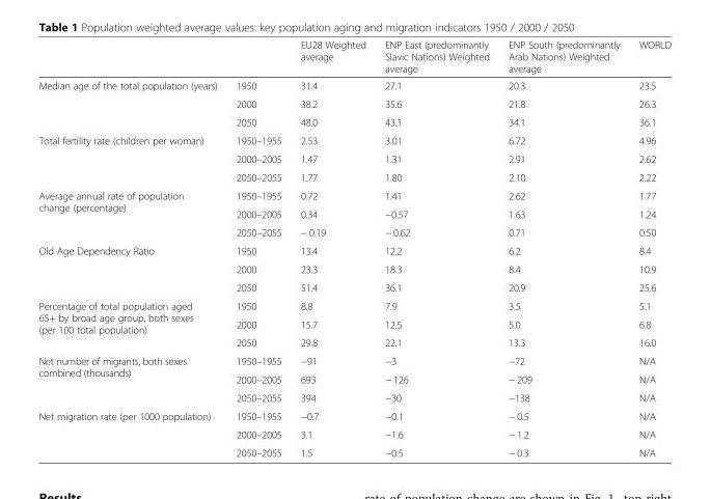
<table><thead><tr><td></td><td></td><td>EU28 Weighted average</td><td>ENP East (predominantly Slavic Nations) Weighted average</td><td>ENP South (predominantly Arab Nations) Weighted average</td><td>WORLD</td></tr></thead><tbody><tr><td rowspan="3">Median age of the total population (years)</td><td>1950</td><td>31.4</td><td>27.1</td><td>20.3</td><td>23.5</td></tr><tr><td>2000</td><td>38.2</td><td>35.6</td><td>21.8</td><td>26.3</td></tr><tr><td>2050</td><td>48.0</td><td>43.1</td><td>34.1</td><td>36.1</td></tr><tr><td rowspan="3">Total fertility rate (children per woman)</td><td>1950–1955</td><td>2.53</td><td>3.01</td><td>6.72</td><td>4.96</td></tr><tr><td>2000–2005</td><td>1.47</td><td>1.31</td><td>2.91</td><td>2.62</td></tr><tr><td>2050–2055</td><td>1.77</td><td>1.80</td><td>2.10</td><td>2.22</td></tr><tr><td rowspan="3">Average annual rate of population change (percentage)</td><td>1950–1955</td><td>0.72</td><td>1.41</td><td>2.62</td><td>1.77</td></tr><tr><td>2000–2005</td><td>0.34</td><td>−0.57</td><td>1.63</td><td>1.24</td></tr><tr><td>2050–2055</td><td>− 0.19</td><td>− 0.62</td><td>0.71</td><td>0.50</td></tr><tr><td rowspan="3">Old Age Dependency Ratio</td><td>1950</td><td>13.4</td><td>12.2</td><td>6.2</td><td>8.4</td></tr><tr><td>2000</td><td>23.3</td><td>18.3</td><td>8.4</td><td>10.9</td></tr><tr><td>2050</td><td>51.4</td><td>36.1</td><td>20.9</td><td>25.6</td></tr><tr><td rowspan="3">Percentage of total population aged 65+ by broad age group, both sexes (per 100 total population)</td><td>1950</td><td>8.8</td><td>7.9</td><td>3.5</td><td>5.1</td></tr><tr><td>2000</td><td>15.7</td><td>12.5</td><td>5.0</td><td>6.8</td></tr><tr><td>2050</td><td>29.8</td><td>22.1</td><td>13.3</td><td>16.0</td></tr><tr><td rowspan="3">Net number of migrants, both sexes combined (thousands)</td><td>1950–1955</td><td>−91</td><td>−3</td><td>−72</td><td>N/A</td></tr><tr><td>2000–2005</td><td>693</td><td>− 126</td><td>− 209</td><td>N/A</td></tr><tr><td>2050–2055</td><td>394</td><td>−30</td><td>−138</td><td>N/A</td></tr><tr><td rowspan="3">Net migration rate (per 1000 population)</td><td>1950–1955</td><td>−0.7</td><td>−0.1</td><td>− 0.5</td><td>N/A</td></tr><tr><td>2000–2005</td><td>3.1</td><td>−1.6</td><td>− 1.2</td><td>N/A</td></tr><tr><td>2050–2055</td><td>1.5</td><td>−0.5</td><td>− 0.3</td><td>N/A</td></tr></tbody></table>